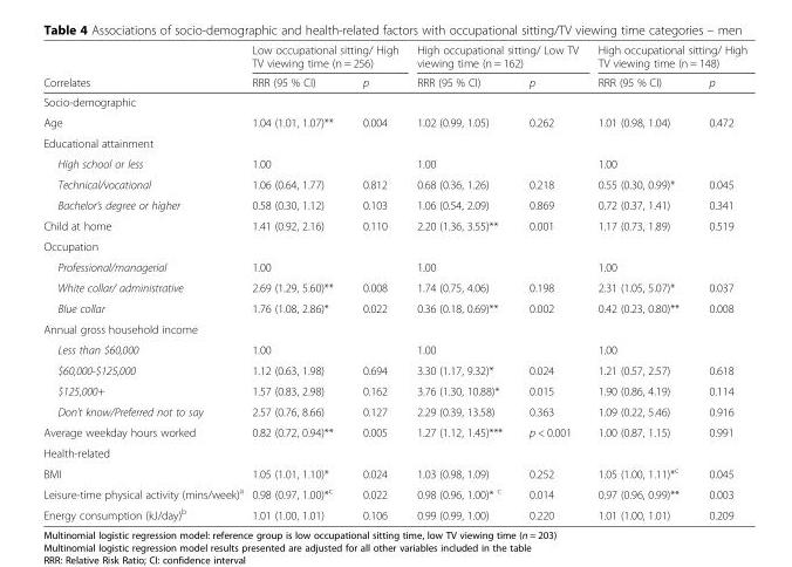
<table><thead><tr><td rowspan="2">Correlates</td><td colspan="2">Low occupational sitting/ High TV viewing time (n = 256)</td><td colspan="2">High occupational sitting/ Low TV viewing time (n = 162)</td><td colspan="2">High occupational sitting/ High TV viewing time (n = 148)</td></tr><tr><td>RRR (95 % CI)</td><td>p</td><td>RRR (95 % CI)</td><td>p</td><td>RRR (95 % CI)</td><td>p</td></tr></thead><tbody><tr><td colspan="7">Socio-demographic</td></tr><tr><td>Age</td><td>1.04 (1.01, 1.07)**</td><td>0.004</td><td>1.02 (0.99, 1.05)</td><td>0.262</td><td>1.01 (0.98, 1.04)</td><td>0.472</td></tr><tr><td colspan="7">Educational attainment</td></tr><tr><td>High school or less</td><td>1.00</td><td></td><td>1.00</td><td></td><td>1.00</td><td></td></tr><tr><td>Technical/vocational</td><td>1.06 (0.64, 1.77)</td><td>0.812</td><td>0.68 (0.36, 1.26)</td><td>0.218</td><td>0.55 (0.30, 0.99)*</td><td>0.045</td></tr><tr><td>Bachelor’s degree or higher</td><td>0.58 (0.30, 1.12)</td><td>0.103</td><td>1.06 (0.54, 2.09)</td><td>0.869</td><td>0.72 (0.37, 1.41)</td><td>0.341</td></tr><tr><td>Child at home</td><td>1.41 (0.92, 2.16)</td><td>0.110</td><td>2.20 (1.36, 3.55)**</td><td>0.001</td><td>1.17 (0.73, 1.89)</td><td>0.519</td></tr><tr><td colspan="7">Occupation</td></tr><tr><td>Professional/managerial</td><td>1.00</td><td></td><td>1.00</td><td></td><td>1.00</td><td></td></tr><tr><td>White collar/ administrative</td><td>2.69 (1.29, 5.60)**</td><td>0.008</td><td>1.74 (0.75, 4.06)</td><td>0.198</td><td>2.31 (1.05, 5.07)*</td><td>0.037</td></tr><tr><td>Blue collar</td><td>1.76 (1.08, 2.86)*</td><td>0.022</td><td>0.36 (0.18, 0.69)**</td><td>0.002</td><td>0.42 (0.23, 0.80)**</td><td>0.008</td></tr><tr><td colspan="7">Annual gross household income</td></tr><tr><td>Less than $60,000</td><td>1.00</td><td></td><td>1.00</td><td></td><td>1.00</td><td></td></tr><tr><td>$60,000-$125,000</td><td>1.12 (0.63, 1.98)</td><td>0.694</td><td>3.30 (1.17, 9.32)*</td><td>0.024</td><td>1.21 (0.57, 2.57)</td><td>0.618</td></tr><tr><td>$125,000+</td><td>1.57 (0.83, 2.98)</td><td>0.162</td><td>3.76 (1.30, 10.88)*</td><td>0.015</td><td>1.90 (0.86, 4.19)</td><td>0.114</td></tr><tr><td>Don’t know/Preferred not to say</td><td>2.57 (0.76, 8.66)</td><td>0.127</td><td>2.29 (0.39, 13.58)</td><td>0.363</td><td>1.09 (0.22, 5.46)</td><td>0.916</td></tr><tr><td>Average weekday hours worked</td><td>0.82 (0.72, 0.94)**</td><td>0.005</td><td>1.27 (1.12, 1.45)***</td><td>p &lt; 0.001</td><td>1.00 (0.87, 1.15)</td><td>0.991</td></tr><tr><td colspan="7">Health-related</td></tr><tr><td>BMI</td><td>1.05 (1.01, 1.10)*</td><td>0.024</td><td>1.03 (0.98, 1.09)</td><td>0.252</td><td>1.05 (1.00, 1.11)*<sup>c</sup></td><td>0.045</td></tr><tr><td>Leisure-time physical activity (mins/week)<sup>a</sup></td><td>0.98 (0.97, 1.00)*<sup>c</sup></td><td>0.022</td><td>0.98 (0.96, 1.00)* <sup>c</sup></td><td>0.014</td><td>0.97 (0.96, 0.99)**</td><td>0.003</td></tr><tr><td>Energy consumption (kJ/day)<sup>b</sup></td><td>1.01 (1.00, 1.01)</td><td>0.106</td><td>0.99 (0.99, 1.00)</td><td>0.220</td><td>1.01 (1.00, 1.01)</td><td>0.209</td></tr></tbody></table>